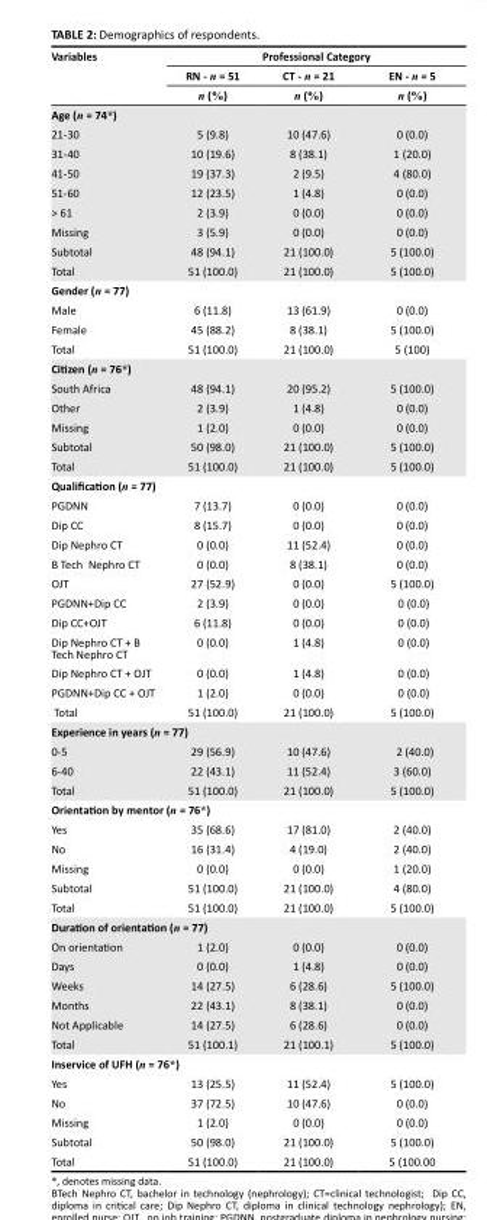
<table><thead><tr><td rowspan="3">Variables</td><td colspan="3">Professional Category</td></tr><tr><td rowspan="2">RN - n = 51 n (%)</td><td rowspan="2">CT - n = 21 n (%)</td><td rowspan="2">EN - n = 5 n (%)</td></tr><tr></tr></thead><tbody><tr><td colspan="4">Age (n = 74*)</td></tr><tr><td>21-30</td><td>5 (9.8)</td><td>10 (47.6)</td><td>0 (0.0)</td></tr><tr><td>31-40</td><td>10 (19.6)</td><td>8 (38.1)</td><td>1 (20.0)</td></tr><tr><td>41-50</td><td>19 (37.3)</td><td>2 (9.5)</td><td>4 (80.0)</td></tr><tr><td>51-60</td><td>12 (23.5)</td><td>1 (4.8)</td><td>0 (0.0)</td></tr><tr><td>&gt; 61</td><td>2 (3.9)</td><td>0 (0.0)</td><td>0 (0.0)</td></tr><tr><td>Missing</td><td>3 (5.9)</td><td>0 (0.0)</td><td>0 (0.0)</td></tr><tr><td>Subtotal</td><td>48 (94.1)</td><td>21 (100.0)</td><td>5 (100.0)</td></tr><tr><td>Total</td><td>51 (100.0)</td><td>21 (100.0)</td><td>5 (100.0)</td></tr><tr><td colspan="4">Gender (n = 77)</td></tr><tr><td>Male</td><td>6 (11.8)</td><td>13 (61.9)</td><td>0 (0.0)</td></tr><tr><td>Female</td><td>45 (88.2)</td><td>8 (38.1)</td><td>5 (100.0)</td></tr><tr><td>Total</td><td>51 (100.0)</td><td>21 (100.0)</td><td>5 (100)</td></tr><tr><td colspan="4">Citizen (n = 76*)</td></tr><tr><td>South Africa</td><td>48 (94.1)</td><td>20 (95.2)</td><td>5 (100.0)</td></tr><tr><td>Other</td><td>2 (3.9)</td><td>1 (4.8)</td><td>0 (0.0)</td></tr><tr><td>Missing</td><td>1 (2.0)</td><td>0 (0.0)</td><td>0 (0.0)</td></tr><tr><td>Subtotal</td><td>50 (98.0)</td><td>21 (100.0)</td><td>5 (100.0)</td></tr><tr><td>Total</td><td>51 (100.0)</td><td>21 (100.0)</td><td>5 (100.0)</td></tr><tr><td colspan="4">Qualification (n = 77)</td></tr><tr><td>PGDNN</td><td>7 (13.7)</td><td>0 (0.0)</td><td>0 (0.0)</td></tr><tr><td>Dip CC</td><td>8 (15.7)</td><td>0 (0.0)</td><td>0 (0.0)</td></tr><tr><td>Dip Nephro CT</td><td>0 (0.0)</td><td>11 (52.4)</td><td>0 (0.0)</td></tr><tr><td>B Tech Nephro CT</td><td>0 (0.0)</td><td>8 (38.1)</td><td>0 (0.0)</td></tr><tr><td>OJT</td><td>27 (52.9)</td><td>0 (0.0)</td><td>5 (100.0)</td></tr><tr><td>PGDNN+Dip CC</td><td>2 (3.9)</td><td>0 (0.0)</td><td>0 (0.0)</td></tr><tr><td>Dip CC+OJT</td><td>6 (11.8)</td><td>0 (0.0)</td><td>0 (0.0)</td></tr><tr><td>Dip Nephro CT + B Tech Nephro CT</td><td>0 (0.0)</td><td>1 (4.8)</td><td>0 (0.0)</td></tr><tr><td>Dip Nephro CT + OJT</td><td>0 (0.0)</td><td>1 (4.8)</td><td>0 (0.0)</td></tr><tr><td>PGDNN+Dip CC + OJT</td><td>1 (2.0)</td><td>0 (0.0)</td><td>0 (0.0)</td></tr><tr><td>Total</td><td>51 (100.0)</td><td>21 (100.0)</td><td>5 (100.0)</td></tr><tr><td colspan="4">Experience in years (n = 77)</td></tr><tr><td>0-5</td><td>29 (56.9)</td><td>10 (47.6)</td><td>2 (40.0)</td></tr><tr><td>6-40</td><td>22 (43.1)</td><td>11 (52.4)</td><td>3 (60.0)</td></tr><tr><td>Total</td><td>51 (100.0)</td><td>21 (100.0)</td><td>5 (100.0)</td></tr><tr><td colspan="4">Orientation by mentor (n = 76*)</td></tr><tr><td>Yes</td><td>35 (68.6)</td><td>17 (81.0)</td><td>2 (40.0)</td></tr><tr><td>No</td><td>16 (31.4)</td><td>4 (19.0)</td><td>2 (40.0)</td></tr><tr><td>Missing</td><td>0 (0.0)</td><td>0 (0.0)</td><td>1 (20.0)</td></tr><tr><td>Subtotal</td><td>51 (100.0)</td><td>21 (100.0)</td><td>4 (80.0)</td></tr><tr><td>Total</td><td>51 (100.0)</td><td>21 (100.0)</td><td>5 (100.0)</td></tr><tr><td colspan="4">Duration of orientation (n = 77)</td></tr><tr><td>On orientation</td><td>1 (2.0)</td><td>0 (0.0)</td><td>0 (0.0)</td></tr><tr><td>Days</td><td>0 (0.0)</td><td>1 (4.8)</td><td>0 (0.0)</td></tr><tr><td>Weeks</td><td>14 (27.5)</td><td>6 (28.6)</td><td>5 (100.0)</td></tr><tr><td>Months</td><td>22 (43.1)</td><td>8 (38.1)</td><td>0 (0.0)</td></tr><tr><td>Not Applicable</td><td>14 (27.5)</td><td>6 (28.6)</td><td>0 (0.0)</td></tr><tr><td>Total</td><td>51 (100.1)</td><td>21 (100.1)</td><td>5 (100.0)</td></tr><tr><td colspan="4">Inservice of UFH (n = 76*)</td></tr><tr><td>Yes</td><td>13 (25.5)</td><td>11 (52.4)</td><td>5 (100.0)</td></tr><tr><td>No</td><td>37 (72.5)</td><td>10 (47.6)</td><td>0 (0.0)</td></tr><tr><td>Missing</td><td>1 (2.0)</td><td>0 (0.0)</td><td>0 (0.0)</td></tr><tr><td>Subtotal</td><td>50 (98.0)</td><td>21 (100.0)</td><td>5 (100.0)</td></tr><tr><td>Total</td><td>51 (100.0)</td><td>21 (100.0)</td><td>5 (100.00</td></tr></tbody></table>